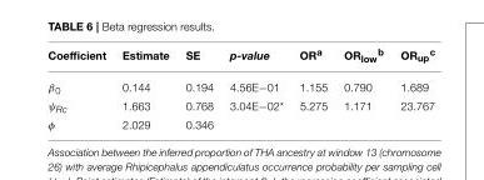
<table><thead><tr><td>Coefficient</td><td>Estimate</td><td>SE</td><td>p-value</td><td>OR<sup>a</sup></td><td>OR<sub>low</sub><sup>b</sup></td><td>OR<sub>up</sub><sup>c</sup></td></tr></thead><tbody><tr><td>β<sub>0</sub></td><td>0.144</td><td>0.194</td><td>4.56E−01</td><td>1.155</td><td>0.790</td><td>1.689</td></tr><tr><td>ψRc</td><td>1.663</td><td>0.768</td><td>3.04E−02*</td><td>5.275</td><td>1.171</td><td>23.767</td></tr><tr><td>φ</td><td>2.029</td><td>0.346</td><td></td><td></td><td></td><td></td></tr></tbody></table>